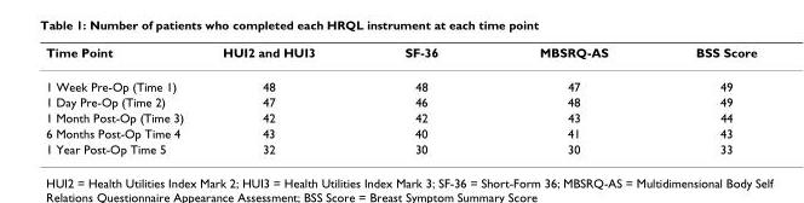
<table><thead><tr><td>Time Point</td><td>HUI2 and HUI3</td><td>SF-36</td><td>MBSRQ-AS</td><td>BSS Score</td></tr></thead><tbody><tr><td>1 Week Pre-Op (Time 1)</td><td>48</td><td>48</td><td>47</td><td>49</td></tr><tr><td>1 Day Pre-Op (Time 2)</td><td>47</td><td>46</td><td>48</td><td>49</td></tr><tr><td>1 Month Post-Op (Time 3)</td><td>42</td><td>42</td><td>43</td><td>44</td></tr><tr><td>6 Months Post-Op Time 4</td><td>43</td><td>40</td><td>41</td><td>43</td></tr><tr><td>1 Year Post-Op Time 5</td><td>32</td><td>30</td><td>30</td><td>33</td></tr></tbody></table>